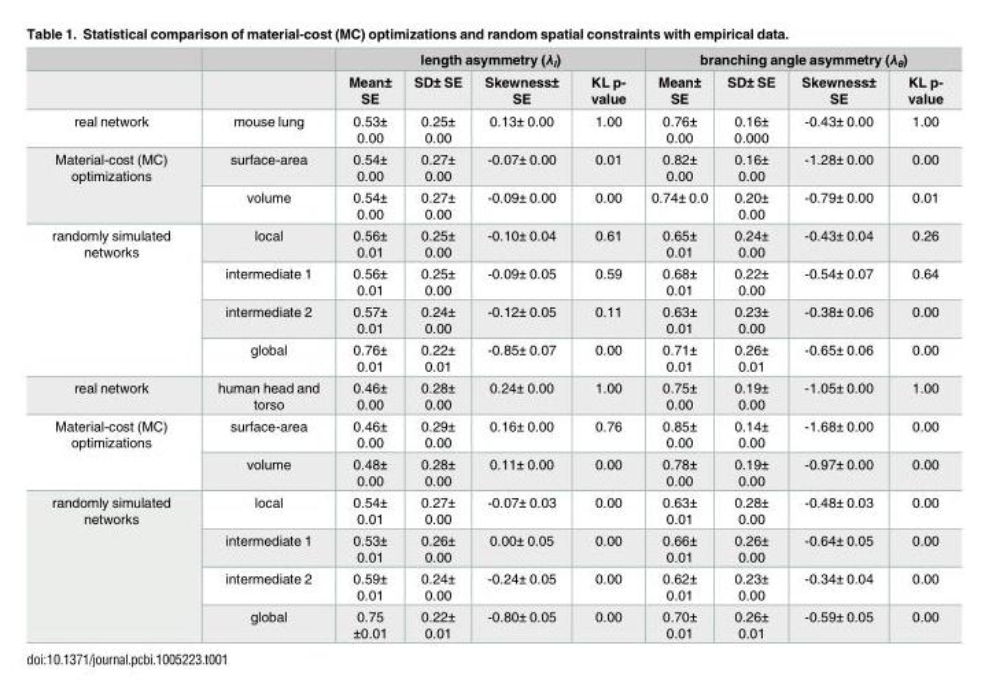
<table><thead><tr><td rowspan="2"></td><td rowspan="2"></td><td colspan="4">length asymmetry (λ<sub>l</sub>)</td><td colspan="4">branching angle asymmetry (λ<sub>θ</sub>)</td></tr><tr><td>Mean± SE</td><td>SD± SE</td><td>Skewness± SE</td><td>KL p- value</td><td>Mean± SE</td><td>SD± SE</td><td>Skewness± SE</td><td>KL p- value</td></tr></thead><tbody><tr><td>real network</td><td>mouse lung</td><td>0.53± 0.00</td><td>0.25± 0.00</td><td>0.13± 0.00</td><td>1.00</td><td>0.76± 0.00</td><td>0.16± 0.000</td><td>-0.43± 0.00</td><td>1.00</td></tr><tr><td rowspan="2">Material-cost (MC) optimizations</td><td>surface-area</td><td>0.54± 0.00</td><td>0.27± 0.00</td><td>-0.07± 0.00</td><td>0.01</td><td>0.82± 0.00</td><td>0.16± 0.00</td><td>-1.28± 0.00</td><td>0.00</td></tr><tr><td>volume</td><td>0.54± 0.00</td><td>0.27± 0.00</td><td>-0.09± 0.00</td><td>0.00</td><td>0.74± 0.0</td><td>0.20± 0.00</td><td>-0.79± 0.00</td><td>0.01</td></tr><tr><td rowspan="4">randomly simulated networks</td><td>local</td><td>0.56± 0.01</td><td>0.25± 0.00</td><td>-0.10± 0.04</td><td>0.61</td><td>0.65± 0.01</td><td>0.24± 0.00</td><td>-0.43± 0.04</td><td>0.26</td></tr><tr><td>intermediate 1</td><td>0.56± 0.01</td><td>0.25± 0.00</td><td>-0.09± 0.05</td><td>0.59</td><td>0.68± 0.01</td><td>0.22± 0.00</td><td>-0.54± 0.07</td><td>0.64</td></tr><tr><td>intermediate 2</td><td>0.57± 0.01</td><td>0.24± 0.00</td><td>-0.12± 0.05</td><td>0.11</td><td>0.63± 0.01</td><td>0.23± 0.00</td><td>-0.38± 0.06</td><td>0.00</td></tr><tr><td>global</td><td>0.76± 0.01</td><td>0.22± 0.01</td><td>-0.85± 0.07</td><td>0.00</td><td>0.71± 0.01</td><td>0.26± 0.01</td><td>-0.65± 0.06</td><td>0.00</td></tr><tr><td>real network</td><td>human head and torso</td><td>0.46± 0.00</td><td>0.28± 0.00</td><td>0.24± 0.00</td><td>1.00</td><td>0.75± 0.00</td><td>0.19± 0.00</td><td>-1.05± 0.00</td><td>1.00</td></tr><tr><td rowspan="2">Material-cost (MC) optimizations</td><td>surface-area</td><td>0.46± 0.00</td><td>0.29± 0.00</td><td>0.16± 0.00</td><td>0.76</td><td>0.85± 0.00</td><td>0.14± 0.00</td><td>-1.68± 0.00</td><td>0.00</td></tr><tr><td>volume</td><td>0.48± 0.00</td><td>0.28± 0.00</td><td>0.11± 0.00</td><td>0.00</td><td>0.78± 0.00</td><td>0.19± 0.00</td><td>-0.97± 0.00</td><td>0.00</td></tr><tr><td rowspan="4">randomly simulated networks</td><td>local</td><td>0.54± 0.01</td><td>0.27± 0.00</td><td>-0.07± 0.03</td><td>0.00</td><td>0.63± 0.01</td><td>0.28± 0.00</td><td>-0.48± 0.03</td><td>0.00</td></tr><tr><td>intermediate 1</td><td>0.53± 0.01</td><td>0.26± 0.00</td><td>0.00± 0.05</td><td>0.00</td><td>0.66± 0.01</td><td>0.26± 0.00</td><td>-0.64± 0.05</td><td>0.00</td></tr><tr><td>intermediate 2</td><td>0.59± 0.01</td><td>0.24± 0.00</td><td>-0.24± 0.05</td><td>0.00</td><td>0.62± 0.01</td><td>0.23± 0.00</td><td>-0.34± 0.04</td><td>0.00</td></tr><tr><td>global</td><td>0.75 ±0.01</td><td>0.22± 0.01</td><td>-0.80± 0.05</td><td>0.00</td><td>0.70± 0.01</td><td>0.26± 0.01</td><td>-0.59± 0.05</td><td>0.00</td></tr></tbody></table>